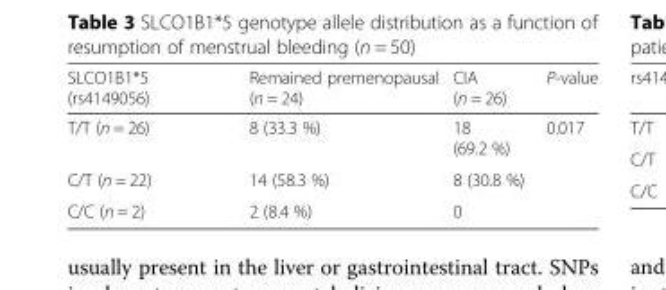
<table><thead><tr><td>SLCO1B1*5 (rs4149056)</td><td>Remained premenopausal (n = 24)</td><td>CIA (n = 26)</td><td>P-value</td></tr></thead><tbody><tr><td>T/T (n = 26)</td><td>8 (33.3 %)</td><td>18 (69.2 %)</td><td rowspan="3">0.017</td></tr><tr><td>C/T (n = 22)</td><td>14 (58.3 %)</td><td>8 (30.8 %)</td></tr><tr><td>C/C (n = 2)</td><td>2 (8.4 %)</td><td>0</td></tr></tbody></table>